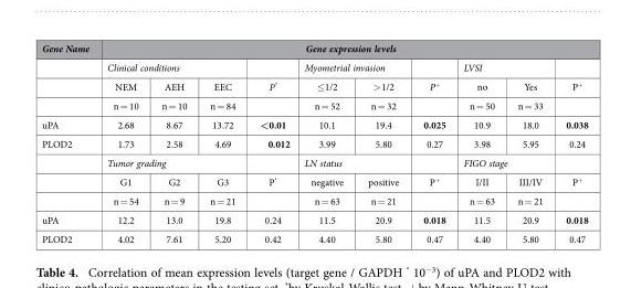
<table><thead><tr><td rowspan="3">Gene Name</td><td colspan="10">Gene expression levels</td></tr><tr><td colspan="3">Clinical conditions</td><td rowspan="2">P*</td><td colspan="2">Myometrial invasion</td><td rowspan="2">P+</td><td colspan="2">LVSI</td><td rowspan="2">P+</td></tr><tr><td>NEM</td><td>AEH</td><td>EEC</td><td>≤1/2</td><td>&gt; 1/2</td><td>no</td><td>Yes</td></tr></thead><tbody><tr><td></td><td>n = 10</td><td>n = 10</td><td>n = 84</td><td></td><td>n = 52</td><td>n = 32</td><td></td><td>n = 50</td><td>n = 33</td><td></td></tr><tr><td>uPA</td><td>2.68</td><td>8.67</td><td>13.72</td><td>&lt;0.01</td><td>10.1</td><td>19.4</td><td>0.025</td><td>10.9</td><td>18.0</td><td>0.038</td></tr><tr><td rowspan="4">PLOD2</td><td>1.73</td><td>2.58</td><td>4.69</td><td>0.012</td><td>3.99</td><td>5.80</td><td>0.27</td><td>3.98</td><td>5.95</td><td>0.24</td></tr><tr><td colspan="3">Tumor grading</td><td></td><td colspan="2">LN status</td><td></td><td colspan="2">FIGO stage</td><td></td></tr><tr><td>G1</td><td>G2</td><td>G3</td><td>P*</td><td>negative</td><td>positive</td><td>P+</td><td>I/II</td><td>III/IV</td><td>P+</td></tr><tr><td>n = 54</td><td>n = 9</td><td>n = 21</td><td></td><td>n = 63</td><td>n = 21</td><td></td><td>n = 63</td><td>n = 21</td><td></td></tr><tr><td>uPA</td><td>12.2</td><td>13.0</td><td>19.8</td><td>0.24</td><td>11.5</td><td>20.9</td><td>0.018</td><td>11.5</td><td>20.9</td><td>0.018</td></tr><tr><td>PLOD2</td><td>4.02</td><td>7.61</td><td>5.20</td><td>0.42</td><td>4.40</td><td>5.80</td><td>0.47</td><td>4.40</td><td>5.80</td><td>0.47</td></tr></tbody></table>